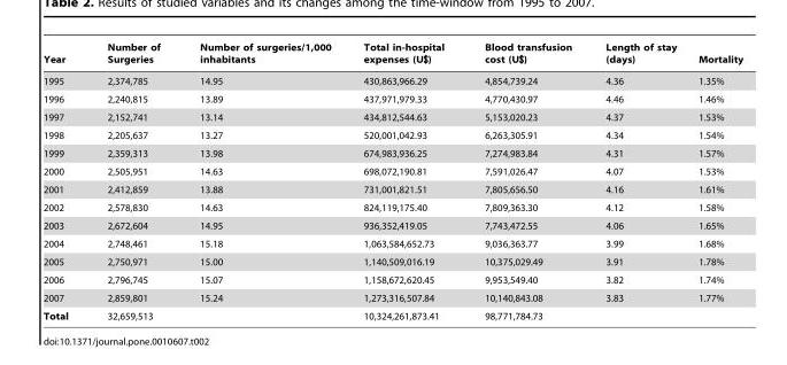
<table><thead><tr><td>Year</td><td>Number of Surgeries</td><td>Number of surgeries/1,000 inhabitants</td><td>Total in-hospital expenses (U$)</td><td>Blood transfusion cost (U$)</td><td>Length of stay (days)</td><td>Mortality</td></tr></thead><tbody><tr><td>1995</td><td>2,374,785</td><td>14.95</td><td>430,863,966.29</td><td>4,854,739.24</td><td>4.36</td><td>1.35%</td></tr><tr><td>1996</td><td>2,240,815</td><td>13.89</td><td>437,971,979.33</td><td>4,770,430.97</td><td>4.46</td><td>1.46%</td></tr><tr><td>1997</td><td>2,152,741</td><td>13.14</td><td>434,812,544.63</td><td>5,153,020.23</td><td>4.37</td><td>1.53%</td></tr><tr><td>1998</td><td>2,205,637</td><td>13.27</td><td>520,001,042.93</td><td>6,263,305.91</td><td>4.34</td><td>1.54%</td></tr><tr><td>1999</td><td>2,359,313</td><td>13.98</td><td>674,983,936.25</td><td>7,274,983.84</td><td>4.31</td><td>1.57%</td></tr><tr><td>2000</td><td>2,505,951</td><td>14.63</td><td>698,072,190.81</td><td>7,591,026.47</td><td>4.07</td><td>1.53%</td></tr><tr><td>2001</td><td>2,412,859</td><td>13.88</td><td>731,001,821.51</td><td>7,805,656.50</td><td>4.16</td><td>1.61%</td></tr><tr><td>2002</td><td>2,578,830</td><td>14.63</td><td>824,119,175.40</td><td>7,809,363.30</td><td>4.12</td><td>1.58%</td></tr><tr><td>2003</td><td>2,672,604</td><td>14.95</td><td>936,352,419.05</td><td>7,743,472.55</td><td>4.06</td><td>1.65%</td></tr><tr><td>2004</td><td>2,748,461</td><td>15.18</td><td>1,063,584,652.73</td><td>9,036,363.77</td><td>3.99</td><td>1.68%</td></tr><tr><td>2005</td><td>2,750,971</td><td>15.00</td><td>1,140,509,016.19</td><td>10,375,029.49</td><td>3.91</td><td>1.78%</td></tr><tr><td>2006</td><td>2,796,745</td><td>15.07</td><td>1,158,672,620.45</td><td>9,953,549.40</td><td>3.82</td><td>1.74%</td></tr><tr><td>2007</td><td>2,859,801</td><td>15.24</td><td>1,273,316,507.84</td><td>10,140,843.08</td><td>3.83</td><td>1.77%</td></tr><tr><td>Total</td><td>32,659,513</td><td></td><td>10,324,261,873.41</td><td>98,771,784.73</td><td></td><td></td></tr></tbody></table>